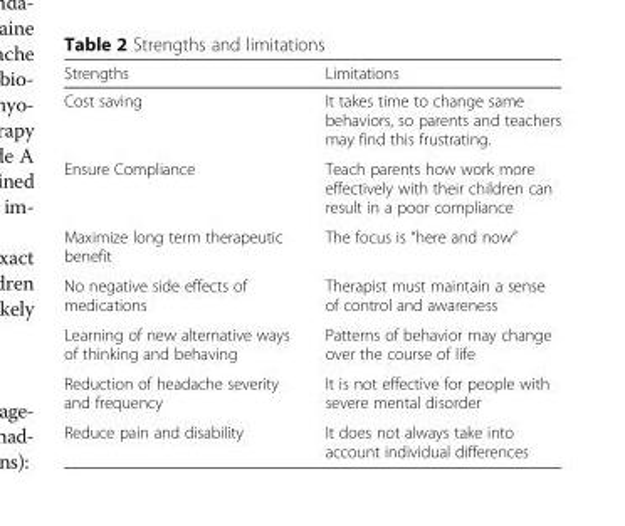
<table><thead><tr><td>Strengths</td><td>Limitations</td></tr></thead><tbody><tr><td>Cost saving</td><td>It takes time to change same behaviors, so parents and teachers may find this frustrating.</td></tr><tr><td>Ensure Compliance</td><td>Teach parents how work more effectively with their children can result in a poor compliance</td></tr><tr><td>Maximize long term therapeutic benefit</td><td>The focus is “here and now”</td></tr><tr><td>No negative side effects of medications</td><td>Therapist must maintain a sense of control and awareness</td></tr><tr><td>Learning of new alternative ways of thinking and behaving</td><td>Patterns of behavior may change over the course of life</td></tr><tr><td>Reduction of headache severity and frequency</td><td>It is not effective for people with severe mental disorder</td></tr><tr><td>Reduce pain and disability</td><td>It does not always take into account individual differences</td></tr></tbody></table>